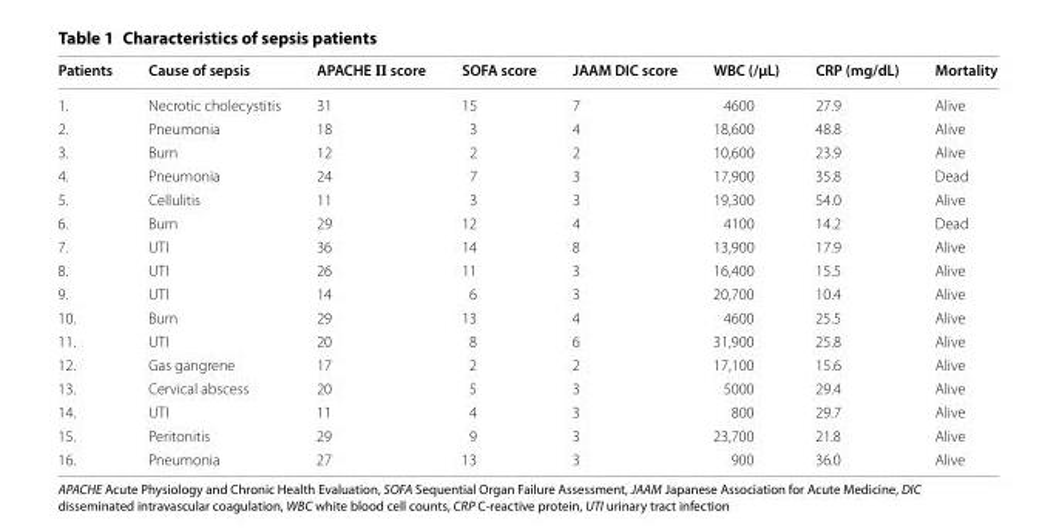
<table><thead><tr><td>Patients</td><td>Cause of sepsis</td><td>APACHE ΙΙ score</td><td>SOFA score</td><td>JAAM DIC score</td><td>WBC (/μL)</td><td>CRP (mg/dL)</td><td>Mortality</td></tr></thead><tbody><tr><td>1.</td><td>Necrotic cholecystitis</td><td>31</td><td>15</td><td>7</td><td>4600</td><td>27.9</td><td>Alive</td></tr><tr><td>2.</td><td>Pneumonia</td><td>18</td><td>3</td><td>4</td><td>18,600</td><td>48.8</td><td>Alive</td></tr><tr><td>3.</td><td>Burn</td><td>12</td><td>2</td><td>2</td><td>10,600</td><td>23.9</td><td>Alive</td></tr><tr><td>4.</td><td>Pneumonia</td><td>24</td><td>7</td><td>3</td><td>17,900</td><td>35.8</td><td>Dead</td></tr><tr><td>5.</td><td>Cellulitis</td><td>11</td><td>3</td><td>3</td><td>19,300</td><td>54.0</td><td>Alive</td></tr><tr><td>6.</td><td>Burn</td><td>29</td><td>12</td><td>4</td><td>4100</td><td>14.2</td><td>Dead</td></tr><tr><td>7.</td><td>UTI</td><td>36</td><td>14</td><td>8</td><td>13,900</td><td>17.9</td><td>Alive</td></tr><tr><td>8.</td><td>UTI</td><td>26</td><td>11</td><td>3</td><td>16,400</td><td>15.5</td><td>Alive</td></tr><tr><td>9.</td><td>UTI</td><td>14</td><td>6</td><td>3</td><td>20,700</td><td>10.4</td><td>Alive</td></tr><tr><td>10.</td><td>Burn</td><td>29</td><td>13</td><td>4</td><td>4600</td><td>25.5</td><td>Alive</td></tr><tr><td>11.</td><td>UTI</td><td>20</td><td>8</td><td>6</td><td>31,900</td><td>25.8</td><td>Alive</td></tr><tr><td>12.</td><td>Gas gangrene</td><td>17</td><td>2</td><td>2</td><td>17,100</td><td>15.6</td><td>Alive</td></tr><tr><td>13.</td><td>Cervical abscess</td><td>20</td><td>5</td><td>3</td><td>5000</td><td>29.4</td><td>Alive</td></tr><tr><td>14.</td><td>UTI</td><td>11</td><td>4</td><td>3</td><td>800</td><td>29.7</td><td>Alive</td></tr><tr><td>15.</td><td>Peritonitis</td><td>29</td><td>9</td><td>3</td><td>23,700</td><td>21.8</td><td>Alive</td></tr><tr><td>16.</td><td>Pneumonia</td><td>27</td><td>13</td><td>3</td><td>900</td><td>36.0</td><td>Alive</td></tr></tbody></table>